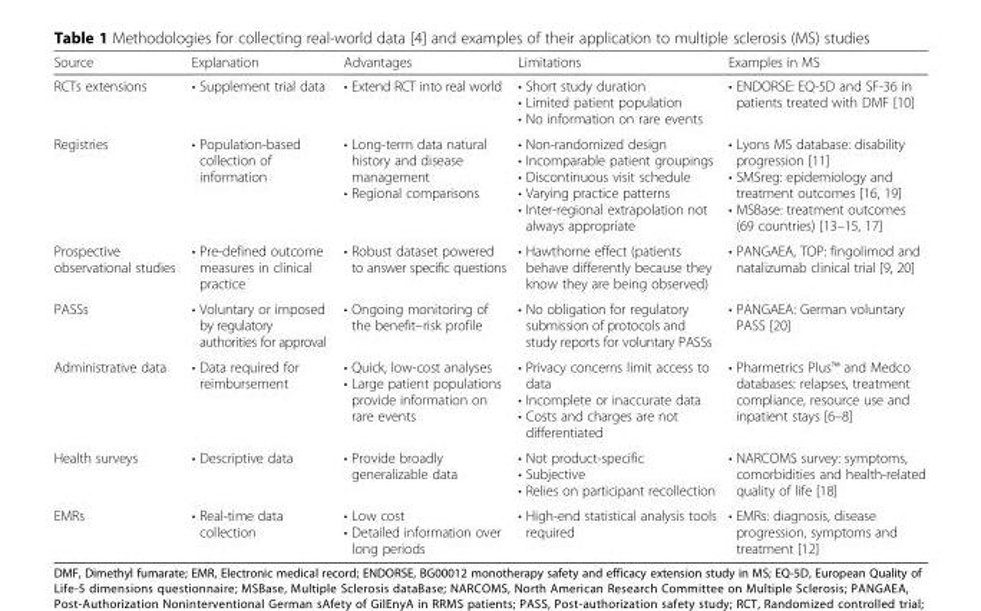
<table><thead><tr><td>Source</td><td>Explanation</td><td>Advantages</td><td>Limitations</td><td>Examples in MS</td></tr></thead><tbody><tr><td>RCTs extensions</td><td>• Supplement trial data</td><td>• Extend RCT into real world</td><td>• Short study duration • Limited patient population • No information on rare events</td><td>• ENDORSE: EQ-5D and SF-36 in patients treated with DMF [10]</td></tr><tr><td>Registries</td><td>• Population-based collection of information</td><td>• Long-term data natural history and disease management • Regional comparisons</td><td>• Non-randomized design • Incomparable patient groupings • Discontinuous visit schedule • Varying practice patterns • Inter-regional extrapolation not always appropriate</td><td>• Lyons MS database: disability progression [11] • SMSreg: epidemiology and treatment outcomes [16, 19] • MSBase: treatment outcomes (69 countries) [13–15, 17]</td></tr><tr><td>Prospective observational studies</td><td>• Pre-defined outcome measures in clinical practice</td><td>• Robust dataset powered to answer specific questions</td><td>• Hawthorne effect (patients behave differently because they know they are being observed)</td><td>• PANGAEA, TOP: fingolimod and natalizumab clinical trial [9, 20]</td></tr><tr><td>PASSs</td><td>• Voluntary or imposed by regulatory authorities for approval</td><td>• Ongoing monitoring of the benefit–risk profile</td><td>• No obligation for regulatory submission of protocols and study reports for voluntary PASSs</td><td>• PANGAEA: German voluntary PASS [20]</td></tr><tr><td>Administrative data</td><td>• Data required for reimbursement</td><td>• Quick, low-cost analyses • Large patient populations provide information on rare events</td><td>• Privacy concerns limit access to data • Incomplete or inaccurate data • Costs and charges are not differentiated</td><td>• Pharmetrics Plus™ and Medco databases: relapses, treatment compliance, resource use and inpatient stays [6–8]</td></tr><tr><td>Health surveys</td><td>• Descriptive data</td><td>• Provide broadly generalizable data</td><td>• Not product-specific • Subjective • Relies on participant recollection</td><td>• NARCOMS survey: symptoms, comorbidities and health-related quality of life [18]</td></tr><tr><td>EMRs</td><td>• Real-time data collection</td><td>• Low cost • Detailed information over long periods</td><td>• High-end statistical analysis tools required</td><td>• EMRs: diagnosis, disease progression, symptoms and treatment [12]</td></tr></tbody></table>